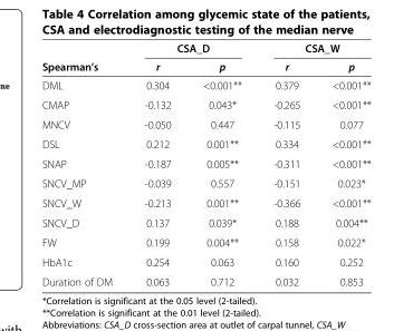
<table><thead><tr><td rowspan="2">Spearman’s</td><td colspan="2">CSA_D</td><td colspan="2">CSA_W</td></tr><tr><td>r</td><td>p</td><td>r</td><td>p</td></tr></thead><tbody><tr><td>DML</td><td>0.304</td><td>&lt;0.001**</td><td>0.379</td><td>&lt;0.001**</td></tr><tr><td>CMAP</td><td>-0.132</td><td>0.043*</td><td>-0.265</td><td>&lt;0.001**</td></tr><tr><td>MNCV</td><td>-0.050</td><td>0.447</td><td>-0.115</td><td>0.077</td></tr><tr><td>DSL</td><td>0.212</td><td>0.001**</td><td>0.334</td><td>&lt;0.001**</td></tr><tr><td>SNAP</td><td>-0.187</td><td>0.005**</td><td>-0.311</td><td>&lt;0.001**</td></tr><tr><td>SNCV_MP</td><td>-0.039</td><td>0.557</td><td>-0.151</td><td>0.023*</td></tr><tr><td>SNCV_W</td><td>-0.213</td><td>0.001**</td><td>-0.366</td><td>&lt;0.001**</td></tr><tr><td>SNCV_D</td><td>0.137</td><td>0.039*</td><td>0.188</td><td>0.004**</td></tr><tr><td>FW</td><td>0.199</td><td>0.004**</td><td>0.158</td><td>0.022*</td></tr><tr><td>HbA1c</td><td>0.254</td><td>0.063</td><td>0.160</td><td>0.252</td></tr><tr><td>Duration of DM</td><td>0.063</td><td>0.712</td><td>0.032</td><td>0.853</td></tr></tbody></table>